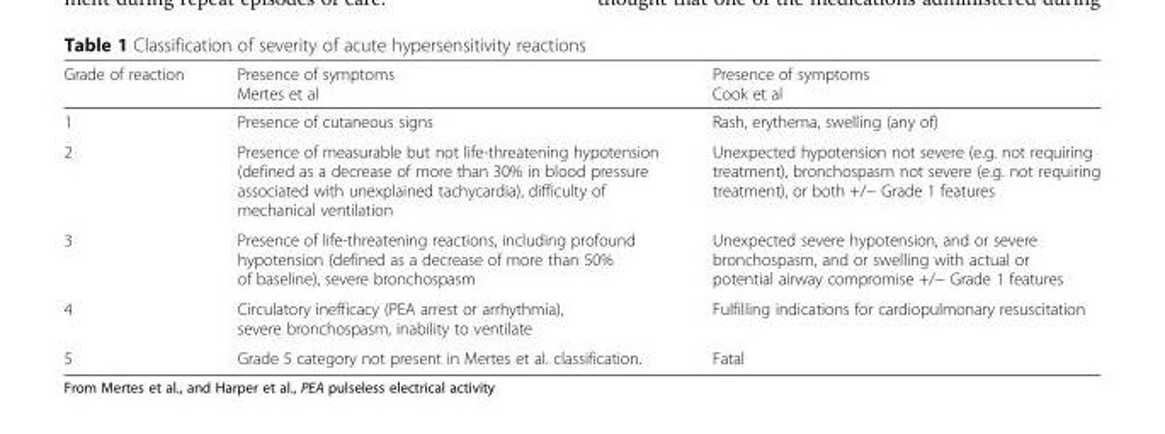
<table><thead><tr><td>Grade of reaction</td><td>Presence of symptoms Mertes et al</td><td>Presence of symptoms Cook et al</td></tr></thead><tbody><tr><td>1</td><td>Presence of cutaneous signs</td><td>Rash, erythema, swelling (any of)</td></tr><tr><td>2</td><td>Presence of measurable but not life-threatening hypotension (defined as a decrease of more than 30% in blood pressure associated with unexplained tachycardia), difficulty of mechanical ventilation</td><td>Unexpected hypotension not severe (e.g. not requiring treatment), bronchospasm not severe (e.g. not requiring treatment), or both +/− Grade 1 features</td></tr><tr><td>3</td><td>Presence of life-threatening reactions, including profound hypotension (defined as a decrease of more than 50% of baseline), severe bronchospasm</td><td>Unexpected severe hypotension, and or severe bronchospasm, and or swelling with actual or potential airway compromise +/− Grade 1 features</td></tr><tr><td>4</td><td>Circulatory inefficacy (PEA arrest or arrhythmia), severe bronchospasm, inability to ventilate</td><td>Fulfilling indications for cardiopulmonary resuscitation</td></tr><tr><td>5</td><td>Grade 5 category not present in Mertes et al. classification.</td><td>Fatal</td></tr></tbody></table>